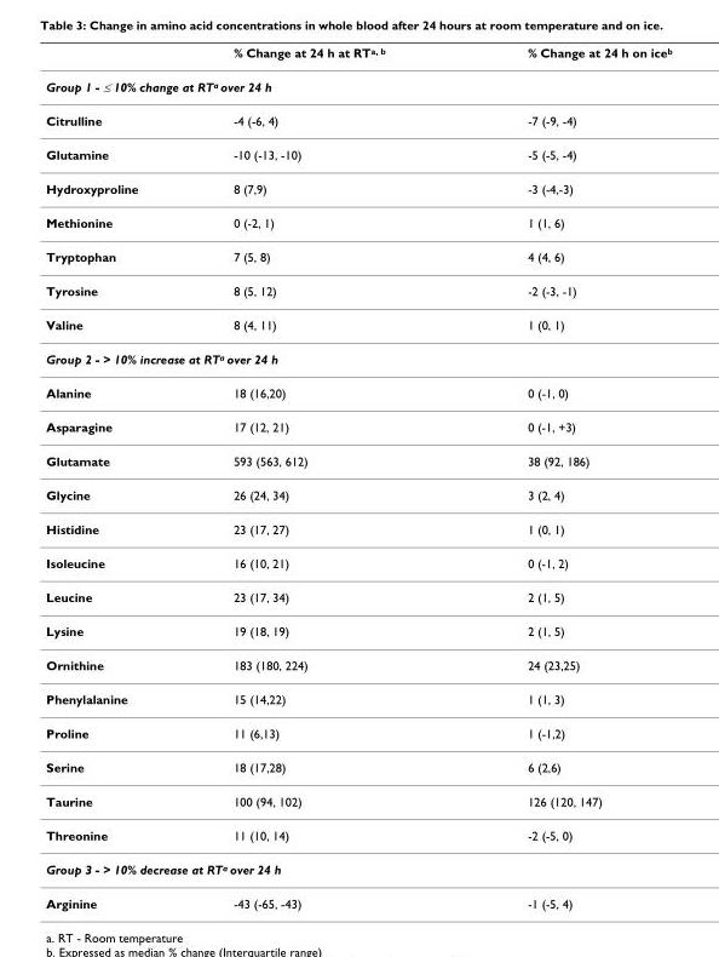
<table><thead><tr><td></td><td>% Change at 24 h at RT<sup>a, b</sup></td><td>% Change at 24 h on ice<sup>b</sup></td></tr></thead><tbody><tr><td colspan="3">Group 1 - ≤ 10% change at RT<sup>a</sup> over 24 h</td></tr><tr><td>Citrulline</td><td>-4 (-6, 4)</td><td>-7 (-9, -4)</td></tr><tr><td>Glutamine</td><td>-10 (-13, -10)</td><td>-5 (-5, -4)</td></tr><tr><td>Hydroxyproline</td><td>8 (7,9)</td><td>-3 (-4,-3)</td></tr><tr><td>Methionine</td><td>0 (-2, 1)</td><td>1 (1, 6)</td></tr><tr><td>Tryptophan</td><td>7 (5, 8)</td><td>4 (4, 6)</td></tr><tr><td>Tyrosine</td><td>8 (5, 12)</td><td>-2 (-3, -1)</td></tr><tr><td>Valine</td><td>8 (4, 11)</td><td>1 (0, 1)</td></tr><tr><td colspan="3">Group 2 - &gt; 10% increase at RT<sup>a</sup> over 24 h</td></tr><tr><td>Alanine</td><td>18 (16,20)</td><td>0 (-1, 0)</td></tr><tr><td>Asparagine</td><td>17 (12, 21)</td><td>0 (-1, +3)</td></tr><tr><td>Glutamate</td><td>593 (563, 612)</td><td>38 (92, 186)</td></tr><tr><td>Glycine</td><td>26 (24, 34)</td><td>3 (2, 4)</td></tr><tr><td>Histidine</td><td>23 (17, 27)</td><td>1 (0, 1)</td></tr><tr><td>Isoleucine</td><td>16 (10, 21)</td><td>0 (-1, 2)</td></tr><tr><td>Leucine</td><td>23 (17, 34)</td><td>2 (1, 5)</td></tr><tr><td>Lysine</td><td>19 (18, 19)</td><td>2 (1, 5)</td></tr><tr><td>Ornithine</td><td>183 (180, 224)</td><td>24 (23,25)</td></tr><tr><td>Phenylalanine</td><td>15 (14,22)</td><td>1 (1, 3)</td></tr><tr><td>Proline</td><td>11 (6,13)</td><td>1 (-1,2)</td></tr><tr><td>Serine</td><td>18 (17,28)</td><td>6 (2,6)</td></tr><tr><td>Taurine</td><td>100 (94, 102)</td><td>126 (120, 147)</td></tr><tr><td>Threonine</td><td>11 (10, 14)</td><td>-2 (-5, 0)</td></tr><tr><td colspan="3">Group 3 - &gt; 10% decrease at RT<sup>a</sup> over 24 h</td></tr><tr><td>Arginine</td><td>-43 (-65, -43)</td><td>-1 (-5, 4)</td></tr></tbody></table>